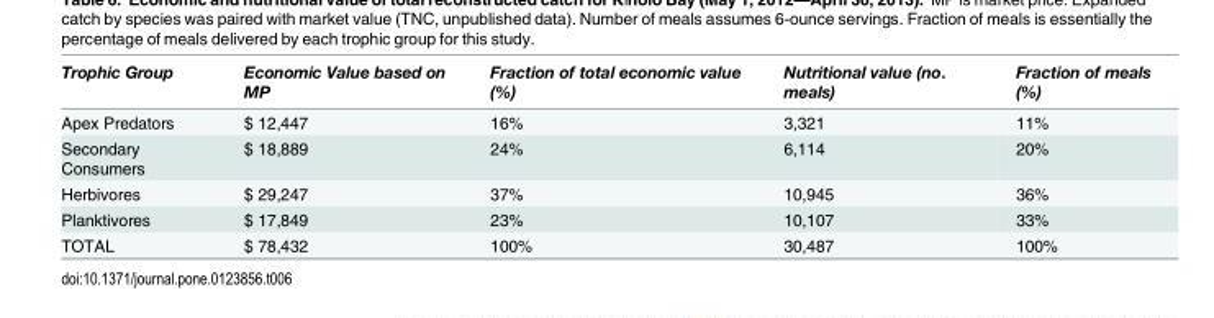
<table><thead><tr><td>Trophic Group</td><td>Economic Value based on MP</td><td>Fraction of total economic value (%)</td><td>Nutritional value (no. meals)</td><td>Fraction of meals (%)</td></tr></thead><tbody><tr><td>Apex Predators</td><td>$ 12,447</td><td>16%</td><td>3,321</td><td>11%</td></tr><tr><td>Secondary Consumers</td><td>$ 18,889</td><td>24%</td><td>6,114</td><td>20%</td></tr><tr><td>Herbivores</td><td>$ 29,247</td><td>37%</td><td>10,945</td><td>36%</td></tr><tr><td>Planktivores</td><td>$ 17,849</td><td>23%</td><td>10,107</td><td>33%</td></tr><tr><td>TOTAL</td><td>$ 78,432</td><td>100%</td><td>30,487</td><td>100%</td></tr></tbody></table>